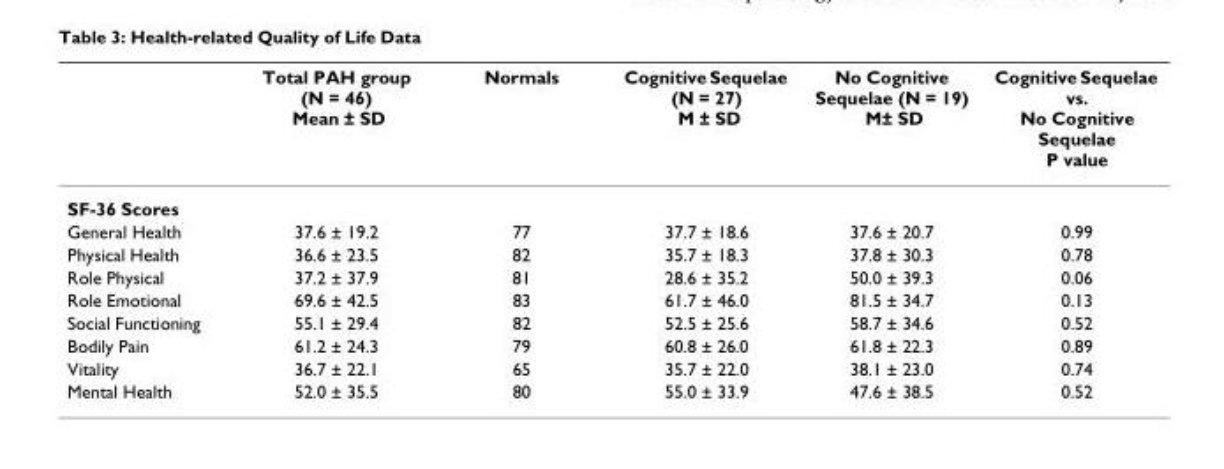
<table><thead><tr><td></td><td>Total PAH group (N = 46) Mean ± SD</td><td>Normals</td><td>Cognitive Sequelae (N = 27) M ± SD</td><td>No Cognitive Sequelae (N = 19) M± SD</td><td>Cognitive Sequelae vs. No Cognitive Sequelae P value</td></tr></thead><tbody><tr><td colspan="6">SF-36 Scores</td></tr><tr><td>General Health</td><td>37.6 ± 19.2</td><td>77</td><td>37.7 ± 18.6</td><td>37.6 ± 20.7</td><td>0.99</td></tr><tr><td>Physical Health</td><td>36.6 ± 23.5</td><td>82</td><td>35.7 ± 18.3</td><td>37.8 ± 30.3</td><td>0.78</td></tr><tr><td>Role Physical</td><td>37.2 ± 37.9</td><td>81</td><td>28.6 ± 35.2</td><td>50.0 ± 39.3</td><td>0.06</td></tr><tr><td>Role Emotional</td><td>69.6 ± 42.5</td><td>83</td><td>61.7 ± 46.0</td><td>81.5 ± 34.7</td><td>0.13</td></tr><tr><td>Social Functioning</td><td>55.1 ± 29.4</td><td>82</td><td>52.5 ± 25.6</td><td>58.7 ± 34.6</td><td>0.52</td></tr><tr><td>Bodily Pain</td><td>61.2 ± 24.3</td><td>79</td><td>60.8 ± 26.0</td><td>61.8 ± 22.3</td><td>0.89</td></tr><tr><td>Vitality</td><td>36.7 ± 22.1</td><td>65</td><td>35.7 ± 22.0</td><td>38.1 ± 23.0</td><td>0.74</td></tr><tr><td>Mental Health</td><td>52.0 ± 35.5</td><td>80</td><td>55.0 ± 33.9</td><td>47.6 ± 38.5</td><td>0.52</td></tr></tbody></table>